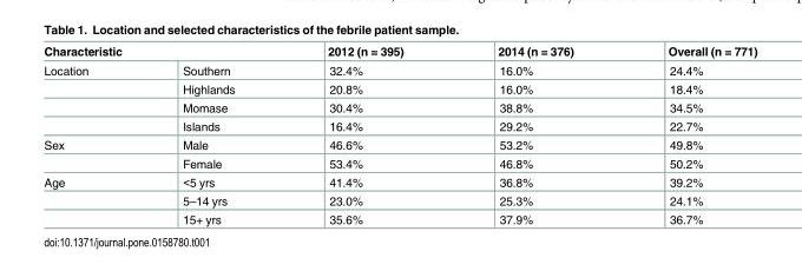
<table><thead><tr><td colspan="2">Characteristic</td><td rowspan="2">2012 (n = 395) 32.4%</td><td rowspan="2">2014 (n = 376) 16.0%</td><td rowspan="2">Overall (n = 771) 24.4%</td></tr><tr><td>Location</td><td>Southern</td></tr></thead><tbody><tr><td></td><td>Highlands</td><td>20.8%</td><td>16.0%</td><td>18.4%</td></tr><tr><td></td><td>Momase</td><td>30.4%</td><td>38.8%</td><td>34.5%</td></tr><tr><td></td><td>Islands</td><td>16.4%</td><td>29.2%</td><td>22.7%</td></tr><tr><td rowspan="2">Sex</td><td>Male</td><td>46.6%</td><td>53.2%</td><td>49.8%</td></tr><tr><td>Female</td><td>53.4%</td><td>46.8%</td><td>50.2%</td></tr><tr><td rowspan="3">Age</td><td>&lt;5 yrs</td><td>41.4%</td><td>36.8%</td><td>39.2%</td></tr><tr><td>5–14 yrs</td><td>23.0%</td><td>25.3%</td><td>24.1%</td></tr><tr><td>15+ yrs</td><td>35.6%</td><td>37.9%</td><td>36.7%</td></tr></tbody></table>